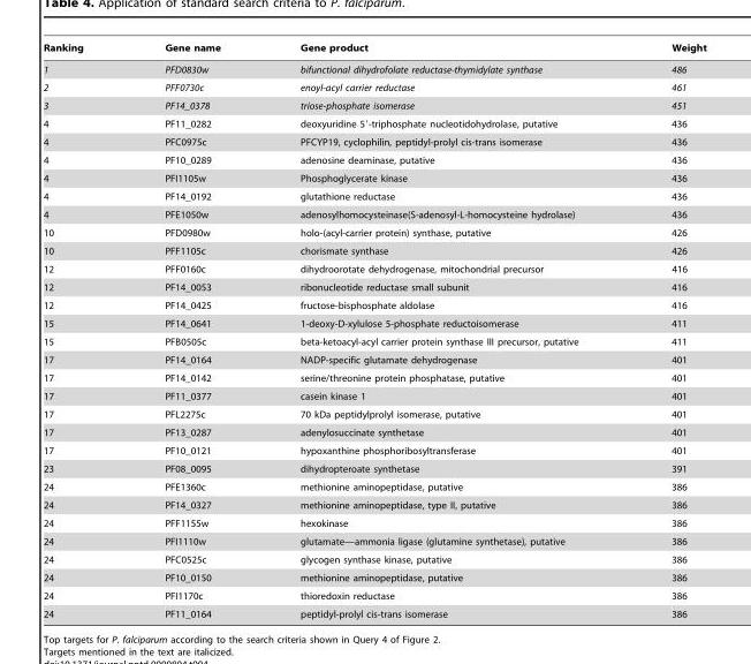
<table><thead><tr><td>Ranking</td><td>Gene name</td><td>Gene product</td><td>Weight</td></tr></thead><tbody><tr><td>1</td><td>PFD0830w</td><td>bifunctional dihydrofolate reductase-thymidylate synthase</td><td>486</td></tr><tr><td>2</td><td>PFF0730c</td><td>enoyl-acyl carrier reductase</td><td>461</td></tr><tr><td>3</td><td>PF14_0378</td><td>triose-phosphate isomerase</td><td>451</td></tr><tr><td>4</td><td>PF11_0282</td><td>deoxyuridine 5′-triphosphate nucleotidohydrolase, putative</td><td>436</td></tr><tr><td>4</td><td>PFC0975c</td><td>PFCYP19, cyclophilin, peptidyl-prolyl cis-trans isomerase</td><td>436</td></tr><tr><td>4</td><td>PF10_0289</td><td>adenosine deaminase, putative</td><td>436</td></tr><tr><td>4</td><td>PFI1105w</td><td>Phosphoglycerate kinase</td><td>436</td></tr><tr><td>4</td><td>PF14_0192</td><td>glutathione reductase</td><td>436</td></tr><tr><td>4</td><td>PFE1050w</td><td>adenosylhomocysteinase(S-adenosyl-L-homocysteine hydrolase)</td><td>436</td></tr><tr><td>10</td><td>PFD0980w</td><td>holo-(acyl-carrier protein) synthase, putative</td><td>426</td></tr><tr><td>10</td><td>PFF1105c</td><td>chorismate synthase</td><td>426</td></tr><tr><td>12</td><td>PFF0160c</td><td>dihydroorotate dehydrogenase, mitochondrial precursor</td><td>416</td></tr><tr><td>12</td><td>PF14_0053</td><td>ribonucleotide reductase small subunit</td><td>416</td></tr><tr><td>12</td><td>PF14_0425</td><td>fructose-bisphosphate aldolase</td><td>416</td></tr><tr><td>15</td><td>PF14_0641</td><td>1-deoxy-D-xylulose 5-phosphate reductoisomerase</td><td>411</td></tr><tr><td>15</td><td>PFB0505c</td><td>beta-ketoacyl-acyl carrier protein synthase III precursor, putative</td><td>411</td></tr><tr><td>17</td><td>PF14_0164</td><td>NADP-specific glutamate dehydrogenase</td><td>401</td></tr><tr><td>17</td><td>PF14_0142</td><td>serine/threonine protein phosphatase, putative</td><td>401</td></tr><tr><td>17</td><td>PF11_0377</td><td>casein kinase 1</td><td>401</td></tr><tr><td>17</td><td>PFL2275c</td><td>70 kDa peptidylprolyl isomerase, putative</td><td>401</td></tr><tr><td>17</td><td>PF13_0287</td><td>adenylosuccinate synthetase</td><td>401</td></tr><tr><td>17</td><td>PF10_0121</td><td>hypoxanthine phosphoribosyltransferase</td><td>401</td></tr><tr><td>23</td><td>PF08_0095</td><td>dihydropteroate synthetase</td><td>391</td></tr><tr><td>24</td><td>PFE1360c</td><td>methionine aminopeptidase, putative</td><td>386</td></tr><tr><td>24</td><td>PF14_0327</td><td>methionine aminopeptidase, type II, putative</td><td>386</td></tr><tr><td>24</td><td>PFF1155w</td><td>hexokinase</td><td>386</td></tr><tr><td>24</td><td>PFI1110w</td><td>glutamate—ammonia ligase (glutamine synthetase), putative</td><td>386</td></tr><tr><td>24</td><td>PFC0525c</td><td>glycogen synthase kinase, putative</td><td>386</td></tr><tr><td>24</td><td>PF10_0150</td><td>methionine aminopeptidase, putative</td><td>386</td></tr><tr><td>24</td><td>PFI1170c</td><td>thioredoxin reductase</td><td>386</td></tr><tr><td>24</td><td>PF11_0164</td><td>peptidyl-prolyl cis-trans isomerase</td><td>386</td></tr></tbody></table>